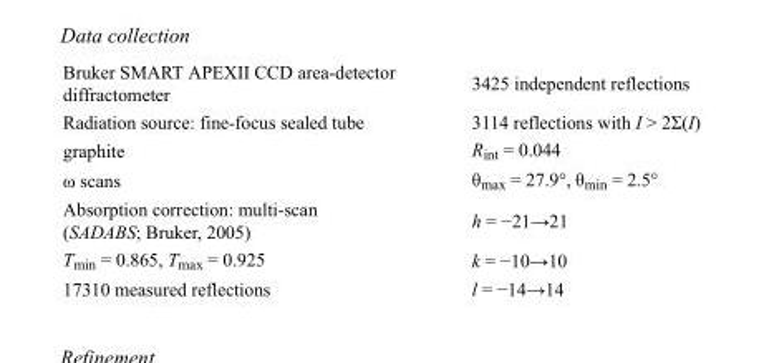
<table><tbody><tr><td>Bruker SMART APEXII CCD area-detector diffractometer</td><td>3425 independent reflections</td></tr><tr><td>Radiation source: fine-focus sealed tube</td><td>3114 reflections with I &gt; 2Σ(I)</td></tr><tr><td>graphite</td><td>R<sub>int</sub> = 0.044</td></tr><tr><td>ω scans</td><td>θ<sub>max</sub> = 27.9°, θ<sub>min</sub> = 2.5°</td></tr><tr><td>Absorption correction: multi-scan (SADABS; Bruker, 2005)</td><td>h = −21→21</td></tr><tr><td>T<sub>min</sub> = 0.865, T<sub>max</sub> = 0.925</td><td>k = −10→10</td></tr><tr><td>17310 measured reflections</td><td>l = −14→14</td></tr></tbody></table>